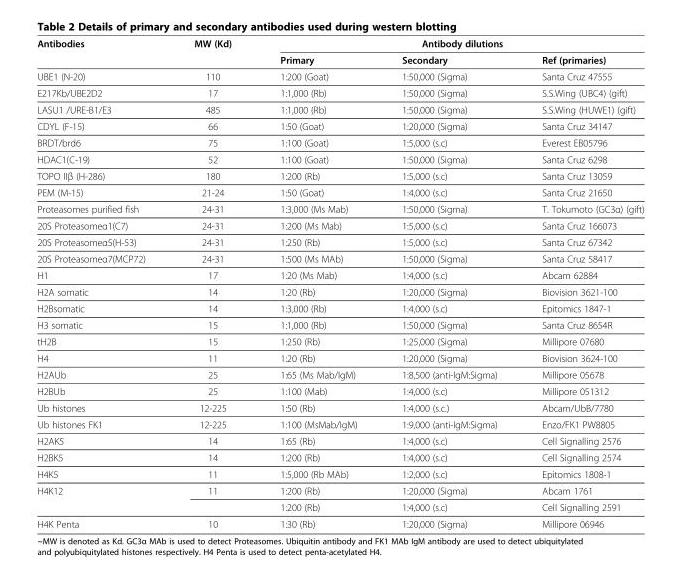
<table><thead><tr><td rowspan="2">Antibodies</td><td rowspan="2">MW (Kd)</td><td colspan="3">Antibody dilutions</td></tr><tr><td>Primary</td><td>Secondary</td><td>Ref (primaries)</td></tr></thead><tbody><tr><td>UBE1 (N-20)</td><td>110</td><td>1:200 (Goat)</td><td>1:50,000 (Sigma)</td><td>Santa Cruz 47555</td></tr><tr><td>E217Kb/UBE2D2</td><td>17</td><td>1:1,000 (Rb)</td><td>1:50,000 (Sigma)</td><td>S.S.Wing (UBC4) (gift)</td></tr><tr><td>LASU1 /URE-B1/E3</td><td>485</td><td>1:1,000 (Rb)</td><td>1:50,000 (Sigma)</td><td>S.S.Wing (HUWE1) (gift)</td></tr><tr><td>CDYL (F-15)</td><td>66</td><td>1:50 (Goat)</td><td>1:20,000 (Sigma)</td><td>Santa Cruz 34147</td></tr><tr><td>BRDT/brd6</td><td>75</td><td>1:100 (Goat)</td><td>1:5,000 (s.c)</td><td>Everest EB05796</td></tr><tr><td>HDAC1(C-19)</td><td>52</td><td>1:100 (Goat)</td><td>1:50,000 (Sigma)</td><td>Santa Cruz 6298</td></tr><tr><td>TOPO IIβ (H-286)</td><td>180</td><td>1:200 (Rb)</td><td>1:5,000 (s.c)</td><td>Santa Cruz 13059</td></tr><tr><td>PEM (M-15)</td><td>21-24</td><td>1:50 (Goat)</td><td>1:4,000 (s.c)</td><td>Santa Cruz 21650</td></tr><tr><td>Proteasomes purified fish</td><td>24-31</td><td>1:3,000 (Ms Mab)</td><td>1:50,000 (Sigma)</td><td>T. Tokumoto (GC3α) (gift)</td></tr><tr><td>20S Proteasomeα1(C7)</td><td>24-31</td><td>1:200 (Ms Mab)</td><td>1:5,000 (s.c)</td><td>Santa Cruz 166073</td></tr><tr><td>20S Proteasomeα5(H-53)</td><td>24-31</td><td>1:250 (Rb)</td><td>1:5,000 (s.c)</td><td>Santa Cruz 67342</td></tr><tr><td>20S Proteasomeα7(MCP72)</td><td>24-31</td><td>1:500 (Ms MAb)</td><td>1:50,000 (Sigma)</td><td>Santa Cruz 58417</td></tr><tr><td>H1</td><td>17</td><td>1:20 (Ms Mab)</td><td>1:4,000 (s.c)</td><td>Abcam 62884</td></tr><tr><td>H2A somatic</td><td>14</td><td>1:20 (Rb)</td><td>1:20,000 (Sigma)</td><td>Biovision 3621-100</td></tr><tr><td>H2Bsomatic</td><td>14</td><td>1:3,000 (Rb)</td><td>1:4,000 (s.c)</td><td>Epitomics 1847-1</td></tr><tr><td>H3 somatic</td><td>15</td><td>1:1,000 (Rb)</td><td>1:50,000 (Sigma)</td><td>Santa Cruz 8654R</td></tr><tr><td>tH2B</td><td>15</td><td>1:250 (Rb)</td><td>1:25,000 (Sigma)</td><td>Millipore 07680</td></tr><tr><td>H4</td><td>11</td><td>1:20 (Rb)</td><td>1:20,000 (Sigma)</td><td>Biovision 3624-100</td></tr><tr><td>H2AUb</td><td>25</td><td>1:65 (Ms Mab/IgM)</td><td>1:8,500 (anti-IgM:Sigma)</td><td>Millipore 05678</td></tr><tr><td>H2BUb</td><td>25</td><td>1:100 (Mab)</td><td>1:4,000 (s.c)</td><td>Millipore 051312</td></tr><tr><td>Ub histones</td><td>12-225</td><td>1:50 (Rb)</td><td>1:4,000 (s.c.)</td><td>Abcam/UbB/7780</td></tr><tr><td>Ub histones FK1</td><td>12-225</td><td>1:100 (MsMab/IgM)</td><td>1:9,000 (anti-IgM:Sigma)</td><td>Enzo/FK1 PW8805</td></tr><tr><td>H2AK5</td><td>14</td><td>1:65 (Rb)</td><td>1:4,000 (s.c)</td><td>Cell Signalling 2576</td></tr><tr><td>H2BK5</td><td>14</td><td>1:200 (Rb)</td><td>1:4,000 (s.c)</td><td>Cell Signalling 2574</td></tr><tr><td>H4K5</td><td>11</td><td>1:5,000 (Rb MAb)</td><td>1:2,000 (s.c)</td><td>Epitomics 1808-1</td></tr><tr><td rowspan="2">H4K12</td><td>11</td><td>1:200 (Rb)</td><td>1:20,000 (Sigma)</td><td>Abcam 1761</td></tr><tr><td></td><td>1:200 (Rb)</td><td>1:4,000 (s.c)</td><td>Cell Signalling 2591</td></tr><tr><td>H4K Penta</td><td>10</td><td>1:30 (Rb)</td><td>1:20,000 (Sigma)</td><td>Millipore 06946</td></tr></tbody></table>